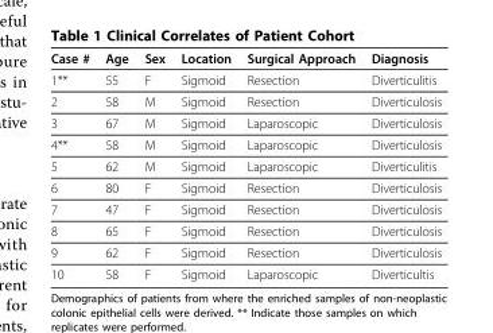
<table><thead><tr><td>Case #</td><td>Age</td><td>Sex</td><td>Location</td><td>Surgical Approach</td><td>Diagnosis</td></tr></thead><tbody><tr><td>1**</td><td>55</td><td>F</td><td>Sigmoid</td><td>Resection</td><td>Diverticulitis</td></tr><tr><td>2</td><td>58</td><td>M</td><td>Sigmoid</td><td>Resection</td><td>Diverticulosis</td></tr><tr><td>3</td><td>67</td><td>M</td><td>Sigmoid</td><td>Laparoscopic</td><td>Diverticulosis</td></tr><tr><td>4**</td><td>58</td><td>M</td><td>Sigmoid</td><td>Laparoscopic</td><td>Diverticulosis</td></tr><tr><td>5</td><td>62</td><td>M</td><td>Sigmoid</td><td>Laparoscopic</td><td>Diverticulitis</td></tr><tr><td>6</td><td>80</td><td>F</td><td>Sigmoid</td><td>Resection</td><td>Diverticulosis</td></tr><tr><td>7</td><td>47</td><td>F</td><td>Sigmoid</td><td>Resection</td><td>Diverticulosis</td></tr><tr><td>8</td><td>65</td><td>F</td><td>Sigmoid</td><td>Resection</td><td>Diverticulosis</td></tr><tr><td>9</td><td>62</td><td>F</td><td>Sigmoid</td><td>Resection</td><td>Diverticulosis</td></tr><tr><td>10</td><td>58</td><td>F</td><td>Sigmoid</td><td>Laparoscopic</td><td>Diverticultis</td></tr></tbody></table>